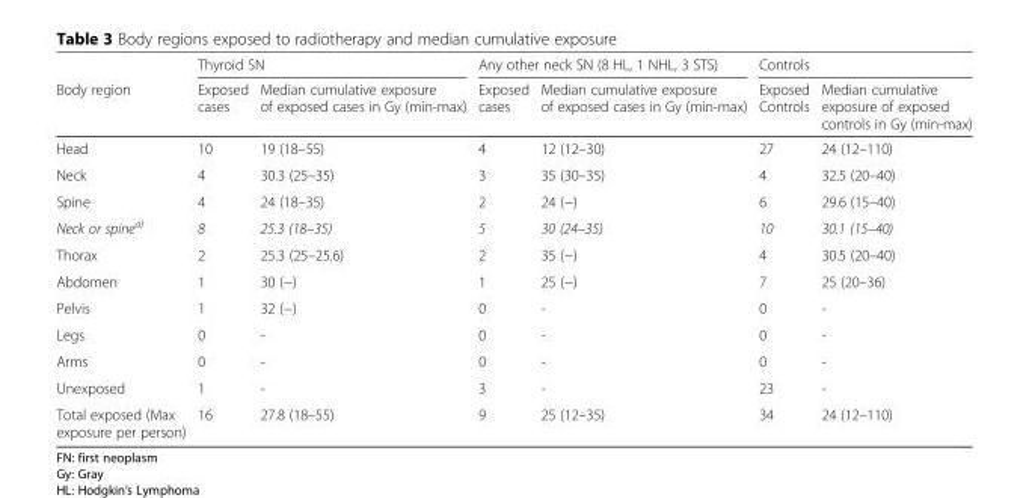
<table><thead><tr><td rowspan="2">Body region</td><td colspan="2">Thyroid SN</td><td colspan="2">Any other neck SN (8 HL, 1 NHL, 3 STS)</td><td colspan="2">Controls</td></tr><tr><td>Exposed cases</td><td>Median cumulative exposure of exposed cases in Gy (min-max)</td><td>Exposed cases</td><td>Median cumulative exposure of exposed cases in Gy (min-max)</td><td>Exposed Controls</td><td>Median cumulative exposure of exposed controls in Gy (min-max)</td></tr></thead><tbody><tr><td>Head</td><td>10</td><td>19 (18–55)</td><td>4</td><td>12 (12–30)</td><td>27</td><td>24 (12–110)</td></tr><tr><td>Neck</td><td>4</td><td>30.3 (25–35)</td><td>3</td><td>35 (30–35)</td><td>4</td><td>32.5 (20–40)</td></tr><tr><td>Spine</td><td>4</td><td>24 (18–35)</td><td>2</td><td>24 (−)</td><td>6</td><td>29.6 (15–40)</td></tr><tr><td>Neck or spine<sup>a)</sup></td><td>8</td><td>25.3 (18–35)</td><td>5</td><td>30 (24–35)</td><td>10</td><td>30.1 (15–40)</td></tr><tr><td>Thorax</td><td>2</td><td>25.3 (25–25.6)</td><td>2</td><td>35 (−)</td><td>4</td><td>30.5 (20–40)</td></tr><tr><td>Abdomen</td><td>1</td><td>30 (−)</td><td>1</td><td>25 (−)</td><td>7</td><td>25 (20–36)</td></tr><tr><td>Pelvis</td><td>1</td><td>32 (−)</td><td>0</td><td>-</td><td>0</td><td>-</td></tr><tr><td>Legs</td><td>0</td><td>-</td><td>0</td><td>-</td><td>0</td><td>-</td></tr><tr><td>Arms</td><td>0</td><td>-</td><td>0</td><td>-</td><td>0</td><td>-</td></tr><tr><td>Unexposed</td><td>1</td><td>-</td><td>3</td><td>-</td><td>23</td><td>-</td></tr><tr><td>Total exposed (Max exposure per person)</td><td>16</td><td>27.8 (18–55)</td><td>9</td><td>25 (12–35)</td><td>34</td><td>24 (12–110)</td></tr></tbody></table>